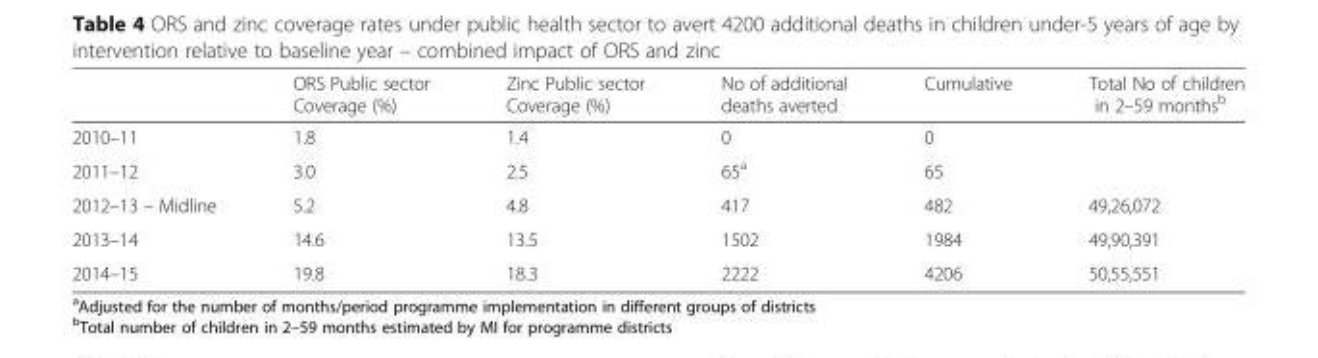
<table><thead><tr><td></td><td>ORS Public sector Coverage (%)</td><td>Zinc Public sector Coverage (%)</td><td>No of additional deaths averted</td><td>Cumulative</td><td>Total No of children in 2–59 months<sup>b</sup></td></tr></thead><tbody><tr><td>2010–11</td><td>1.8</td><td>1.4</td><td>0</td><td>0</td><td></td></tr><tr><td>2011–12</td><td>3.0</td><td>2.5</td><td>65<sup>a</sup></td><td>65</td><td></td></tr><tr><td>2012–13 – Midline</td><td>5.2</td><td>4.8</td><td>417</td><td>482</td><td>49,26,072</td></tr><tr><td>2013–14</td><td>14.6</td><td>13.5</td><td>1502</td><td>1984</td><td>49,90,391</td></tr><tr><td>2014–15</td><td>19.8</td><td>18.3</td><td>2222</td><td>4206</td><td>50,55,551</td></tr></tbody></table>